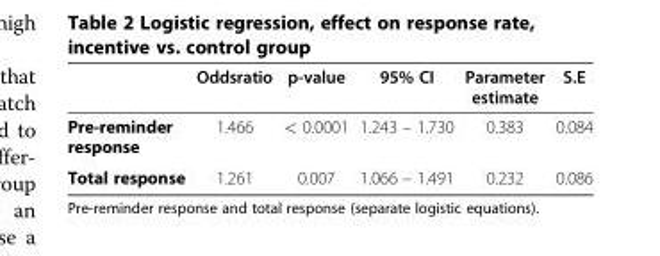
<table><thead><tr><td></td><td>Oddsratio</td><td>p-value</td><td>95% CI</td><td>Parameter estimate</td><td>S.E</td></tr></thead><tbody><tr><td>Pre-reminder response</td><td>1.466</td><td>&lt; 0.0001</td><td>1.243 – 1.730</td><td>0.383</td><td>0.084</td></tr><tr><td>Total response</td><td>1.261</td><td>0.007</td><td>1.066 – 1.491</td><td>0.232</td><td>0.086</td></tr></tbody></table>